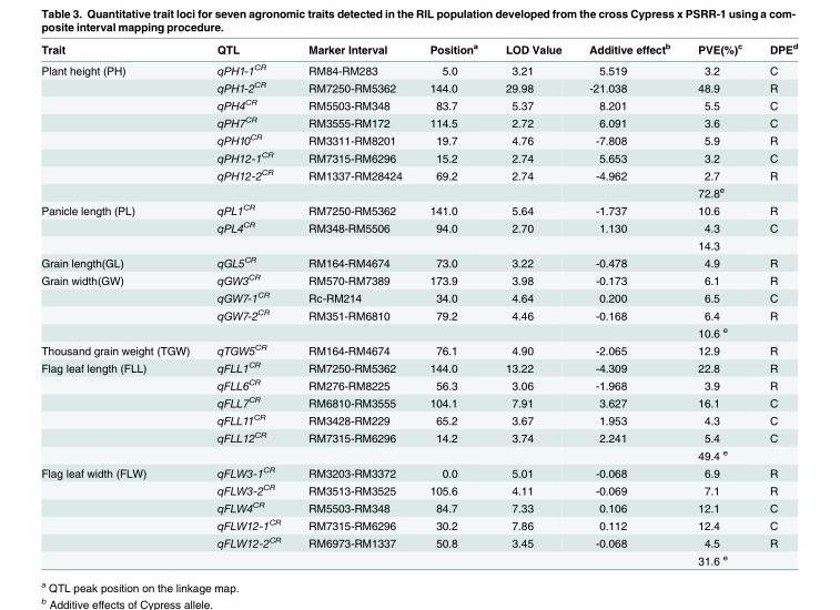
<table><thead><tr><td>Trait</td><td>QTL</td><td>Marker Interval</td><td>Position<sup>a</sup></td><td>LOD Value</td><td>Additive effect<sup>b</sup></td><td>PVE(%)<sup>c</sup></td><td>DPE<sup>d</sup></td></tr></thead><tbody><tr><td rowspan="8">Plant height (PH)</td><td>qPH1-1<sup>CR</sup></td><td>RM84-RM283</td><td>5.0</td><td>3.21</td><td>5.519</td><td>3.2</td><td>C</td></tr><tr><td>qPH1-2<sup>CR</sup></td><td>RM7250-RM5362</td><td>144.0</td><td>29.98</td><td>-21.038</td><td>48.9</td><td>R</td></tr><tr><td>qPH4<sup>CR</sup></td><td>RM5503-RM348</td><td>83.7</td><td>5.37</td><td>8.201</td><td>5.5</td><td>C</td></tr><tr><td>qPH7<sup>CR</sup></td><td>RM3555-RM172</td><td>114.5</td><td>2.72</td><td>6.091</td><td>3.6</td><td>C</td></tr><tr><td>qPH10<sup>CR</sup></td><td>RM3311-RM8201</td><td>19.7</td><td>4.76</td><td>-7.808</td><td>5.9</td><td>R</td></tr><tr><td>qPH12-1<sup>CR</sup></td><td>RM7315-RM6296</td><td>15.2</td><td>2.74</td><td>5.653</td><td>3.2</td><td>C</td></tr><tr><td>qPH12-2<sup>CR</sup></td><td>RM1337-RM28424</td><td>69.2</td><td>2.74</td><td>-4.962</td><td>2.7</td><td>R</td></tr><tr><td></td><td></td><td></td><td></td><td></td><td>72.8<sup>e</sup></td><td></td></tr><tr><td rowspan="3">Panicle length (PL)</td><td>qPL1<sup>CR</sup></td><td>RM7250-RM5362</td><td>141.0</td><td>5.64</td><td>-1.737</td><td>10.6</td><td>R</td></tr><tr><td>qPL4<sup>CR</sup></td><td>RM348-RM5506</td><td>94.0</td><td>2.70</td><td>1.130</td><td>4.3</td><td>C</td></tr><tr><td></td><td></td><td></td><td></td><td></td><td>14.3</td><td></td></tr><tr><td>Grain length(GL)</td><td>qGL5<sup>CR</sup></td><td>RM164-RM4674</td><td>73.0</td><td>3.22</td><td>-0.478</td><td>4.9</td><td>R</td></tr><tr><td rowspan="4">Grain width(GW)</td><td>qGW3<sup>CR</sup></td><td>RM570-RM7389</td><td>173.9</td><td>3.98</td><td>-0.173</td><td>6.1</td><td>R</td></tr><tr><td>qGW7-1<sup>CR</sup></td><td>Rc-RM214</td><td>34.0</td><td>4.64</td><td>0.200</td><td>6.5</td><td>C</td></tr><tr><td>qGW7-2<sup>CR</sup></td><td>RM351-RM6810</td><td>79.2</td><td>4.46</td><td>-0.168</td><td>6.4</td><td>R</td></tr><tr><td></td><td></td><td></td><td></td><td></td><td>10.6 <sup>e</sup></td><td></td></tr><tr><td>Thousand grain weight (TGW)</td><td>qTGW5<sup>CR</sup></td><td>RM164-RM4674</td><td>76.1</td><td>4.90</td><td>-2.065</td><td>12.9</td><td>R</td></tr><tr><td rowspan="6">Flag leaf length (FLL)</td><td>qFLL1<sup>CR</sup></td><td>RM7250-RM5362</td><td>144.0</td><td>13.22</td><td>-4.309</td><td>22.8</td><td>R</td></tr><tr><td>qFLL6<sup>CR</sup></td><td>RM276-RM8225</td><td>56.3</td><td>3.06</td><td>-1.968</td><td>3.9</td><td>R</td></tr><tr><td>qFLL7<sup>CR</sup></td><td>RM6810-RM3555</td><td>104.1</td><td>7.91</td><td>3.627</td><td>16.1</td><td>C</td></tr><tr><td>qFLL11<sup>CR</sup></td><td>RM3428-RM229</td><td>65.2</td><td>3.67</td><td>1.953</td><td>4.3</td><td>C</td></tr><tr><td>qFLL12<sup>CR</sup></td><td>RM7315-RM6296</td><td>14.2</td><td>3.74</td><td>2.241</td><td>5.4</td><td>C</td></tr><tr><td></td><td></td><td></td><td></td><td></td><td>49.4 <sup>e</sup></td><td></td></tr><tr><td rowspan="6">Flag leaf width (FLW)</td><td>qFLW3-1<sup>CR</sup></td><td>RM3203-RM3372</td><td>0.0</td><td>5.01</td><td>-0.068</td><td>6.9</td><td>R</td></tr><tr><td>qFLW3-2<sup>CR</sup></td><td>RM3513-RM3525</td><td>105.6</td><td>4.11</td><td>-0.069</td><td>7.1</td><td>R</td></tr><tr><td>qFLW4<sup>CR</sup></td><td>RM5503-RM348</td><td>84.7</td><td>7.33</td><td>0.106</td><td>12.1</td><td>C</td></tr><tr><td>qFLW12-1<sup>CR</sup></td><td>RM7315-RM6296</td><td>30.2</td><td>7.86</td><td>0.112</td><td>12.4</td><td>C</td></tr><tr><td>qFLW12-2<sup>CR</sup></td><td>RM6973-RM1337</td><td>50.8</td><td>3.45</td><td>-0.068</td><td>4.5</td><td>R</td></tr><tr><td></td><td></td><td></td><td></td><td></td><td>31.6 <sup>e</sup></td><td></td></tr></tbody></table>